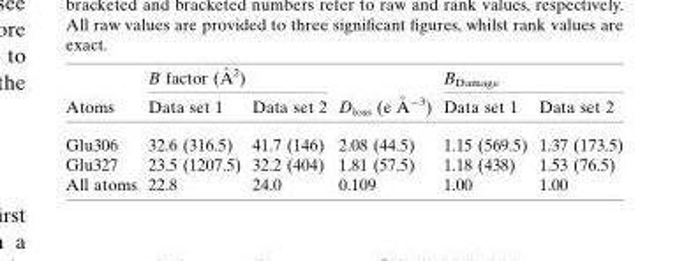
<table><thead><tr><td rowspan="2">Atoms</td><td colspan="2">B factor (A˚ 2)</td><td rowspan="2">Dloss (e A˚ �3)</td><td colspan="2">B<sub>Damage</sub></td></tr><tr><td>Data set 1</td><td>Data set 2</td><td>Data set 1</td><td>Data set 2</td></tr></thead><tbody><tr><td>Glu306</td><td>32.6 (316.5)</td><td>41.7 (146)</td><td>2.08 (44.5)</td><td>1.15 (569.5)</td><td>1.37 (173.5)</td></tr><tr><td>Glu327</td><td>23.5 (1207.5)</td><td>32.2 (404)</td><td>1.81 (57.5)</td><td>1.18 (438)</td><td>1.53 (76.5)</td></tr><tr><td>All atoms</td><td>22.8</td><td>24.0</td><td>0.109</td><td>1.00</td><td>1.00</td></tr></tbody></table>